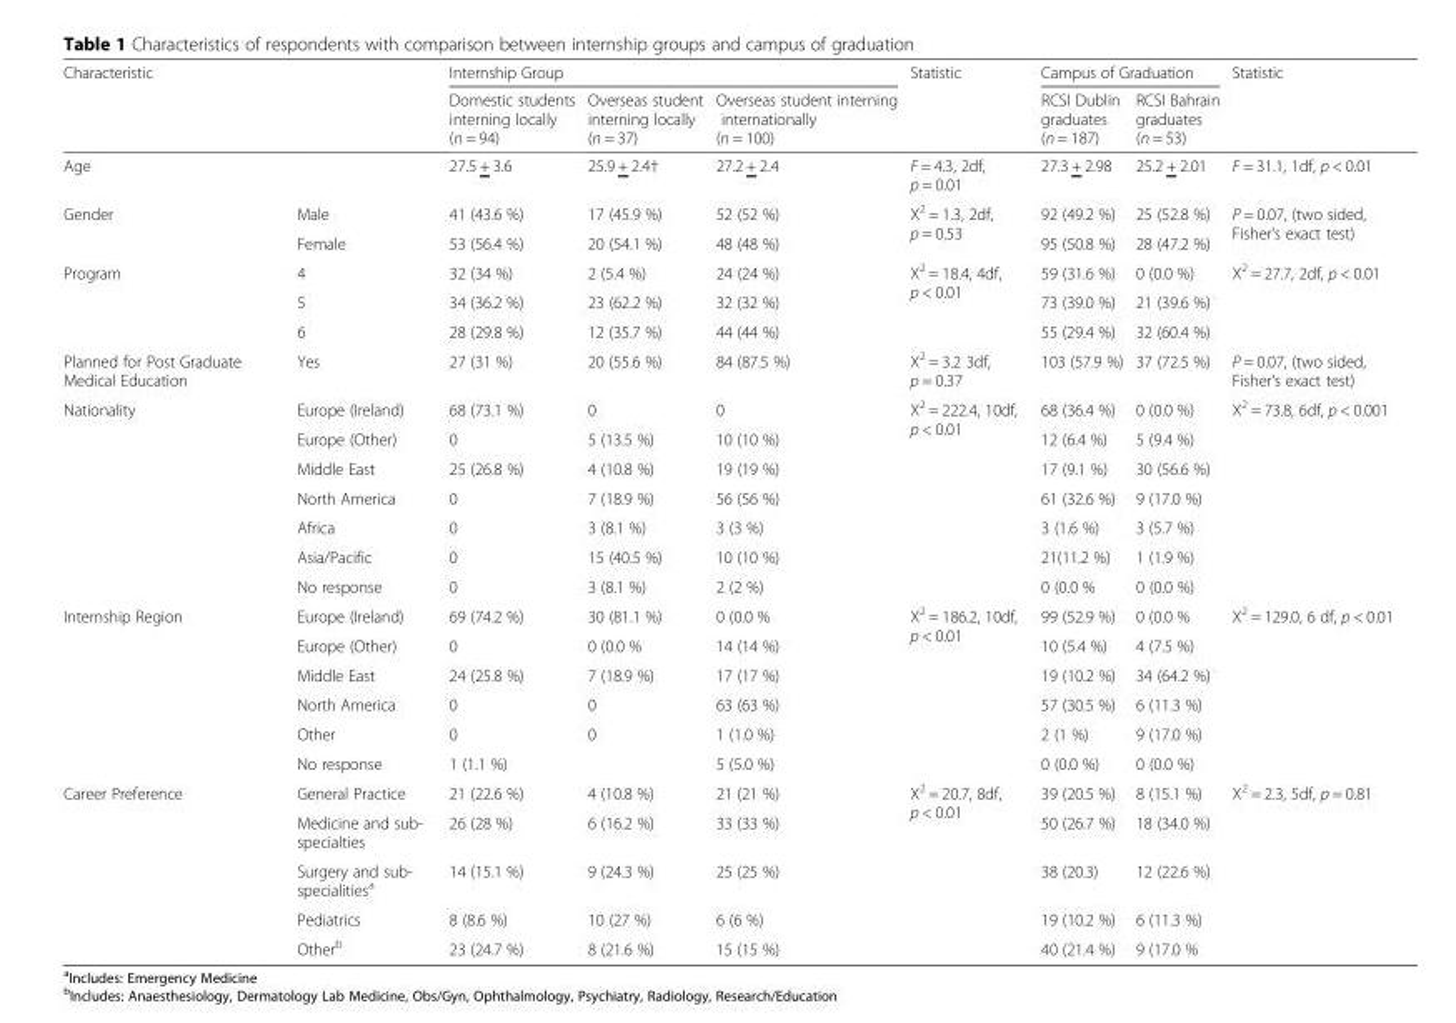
<table><thead><tr><td rowspan="2">Characteristic</td><td rowspan="2"></td><td colspan="3">Internship Group</td><td rowspan="2">Statistic</td><td colspan="2">Campus of Graduation</td><td rowspan="2">Statistic</td></tr><tr><td>Domestic students interning locally (n = 94)</td><td>Overseas student interning locally (n = 37)</td><td>Overseas student interning internationally (n = 100)</td><td>RCSI Dublin graduates (n = 187)</td><td>RCSI Bahrain graduates (n = 53)</td></tr></thead><tbody><tr><td>Age</td><td></td><td>27.5 + 3.6</td><td>25.9 + 2.4†</td><td>27.2 + 2.4</td><td>F = 4.3, 2df, p = 0.01</td><td>27.3 + 2.98</td><td>25.2 + 2.01</td><td>F = 31.1, 1df, p &lt; 0.01</td></tr><tr><td rowspan="2">Gender</td><td>Male</td><td>41 (43.6 %)</td><td>17 (45.9 %)</td><td>52 (52 %)</td><td rowspan="2">Χ<sup>2</sup> = 1.3, 2df, p = 0.53</td><td>92 (49.2 %)</td><td>25 (52.8 %)</td><td rowspan="2">P = 0.07, (two sided, Fisher’s exact test)</td></tr><tr><td>Female</td><td>53 (56.4 %)</td><td>20 (54.1 %)</td><td>48 (48 %)</td><td>95 (50.8 %)</td><td>28 (47.2 %)</td></tr><tr><td rowspan="3">Program</td><td>4</td><td>32 (34 %)</td><td>2 (5.4 %)</td><td>24 (24 %)</td><td rowspan="3">Χ<sup>2</sup> = 18.4, 4df, p &lt; 0.01</td><td>59 (31.6 %)</td><td>0 (0.0 %)</td><td rowspan="3">Χ<sup>2</sup> = 27.7, 2df, p &lt; 0.01</td></tr><tr><td>5</td><td>34 (36.2 %)</td><td>23 (62.2 %)</td><td>32 (32 %)</td><td>73 (39.0 %)</td><td>21 (39.6 %)</td></tr><tr><td>6</td><td>28 (29.8 %)</td><td>12 (35.7 %)</td><td>44 (44 %)</td><td>55 (29.4 %)</td><td>32 (60.4 %)</td></tr><tr><td>Planned for Post Graduate Medical Education</td><td>Yes</td><td>27 (31 %)</td><td>20 (55.6 %)</td><td>84 (87.5 %)</td><td>Χ<sup>2</sup> = 3.2 3df, p = 0.37</td><td>103 (57.9 %)</td><td>37 (72.5 %)</td><td>P = 0.07, (two sided, Fisher’s exact test)</td></tr><tr><td rowspan="7">Nationality</td><td>Europe (Ireland)</td><td>68 (73.1 %)</td><td>0</td><td>0</td><td rowspan="7">Χ<sup>2</sup> = 222.4, 10df, p &lt; 0.01</td><td>68 (36.4 %)</td><td>0 (0.0 %)</td><td>Χ<sup>2</sup> = 73.8, 6df, p &lt; 0.001</td></tr><tr><td>Europe (Other)</td><td>0</td><td>5 (13.5 %)</td><td>10 (10 %)</td><td>12 (6.4 %)</td><td>5 (9.4 %)</td><td></td></tr><tr><td>Middle East</td><td>25 (26.8 %)</td><td>4 (10.8 %)</td><td>19 (19 %)</td><td>17 (9.1 %)</td><td>30 (56.6 %)</td><td></td></tr><tr><td>North America</td><td>0</td><td>7 (18.9 %)</td><td>56 (56 %)</td><td>61 (32.6 %)</td><td>9 (17.0 %)</td><td></td></tr><tr><td>Africa</td><td>0</td><td>3 (8.1 %)</td><td>3 (3 %)</td><td>3 (1.6 %)</td><td>3 (5.7 %)</td><td></td></tr><tr><td>Asia/Pacific</td><td>0</td><td>15 (40.5 %)</td><td>10 (10 %)</td><td>21(11.2 %)</td><td>1 (1.9 %)</td><td></td></tr><tr><td>No response</td><td>0</td><td>3 (8.1 %)</td><td>2 (2 %)</td><td>0 (0.0 %</td><td>0 (0.0 %)</td><td></td></tr><tr><td rowspan="6">Internship Region</td><td>Europe (Ireland)</td><td>69 (74.2 %)</td><td>30 (81.1 %)</td><td>0 (0.0 %</td><td rowspan="6">Χ<sup>2</sup> = 186.2, 10df, p &lt; 0.01</td><td>99 (52.9 %)</td><td>0 (0.0 %</td><td rowspan="6">Χ<sup>2</sup> = 129.0, 6 df, p &lt; 0.01</td></tr><tr><td>Europe (Other)</td><td>0</td><td>0 (0.0 %</td><td>14 (14 %)</td><td>10 (5.4 %)</td><td>4 (7.5 %)</td></tr><tr><td>Middle East</td><td>24 (25.8 %)</td><td>7 (18.9 %)</td><td>17 (17 %)</td><td>19 (10.2 %)</td><td>34 (64.2 %)</td></tr><tr><td>North America</td><td>0</td><td>0</td><td>63 (63 %)</td><td>57 (30.5 %)</td><td>6 (11.3 %)</td></tr><tr><td>Other</td><td>0</td><td>0</td><td>1 (1.0 %)</td><td>2 (1 %)</td><td>9 (17.0 %)</td></tr><tr><td>No response</td><td>1 (1.1 %)</td><td></td><td>5 (5.0 %)</td><td>0 (0.0 %)</td><td>0 (0.0 %)</td></tr><tr><td rowspan="5">Career Preference</td><td>General Practice</td><td>21 (22.6 %)</td><td>4 (10.8 %)</td><td>21 (21 %)</td><td rowspan="5">Χ<sup>2</sup> = 20.7, 8df, p &lt; 0.01</td><td>39 (20.5 %)</td><td>8 (15.1 %)</td><td rowspan="5">Χ<sup>2</sup> = 2.3, 5df, p = 0.81</td></tr><tr><td>Medicine and sub- specialties</td><td>26 (28 %)</td><td>6 (16.2 %)</td><td>33 (33 %)</td><td>50 (26.7 %)</td><td>18 (34.0 %)</td></tr><tr><td>Surgery and sub- specialities<sup>a</sup></td><td>14 (15.1 %)</td><td>9 (24.3 %)</td><td>25 (25 %)</td><td>38 (20.3)</td><td>12 (22.6 %)</td></tr><tr><td>Pediatrics</td><td>8 (8.6 %)</td><td>10 (27 %)</td><td>6 (6 %)</td><td>19 (10.2 %)</td><td>6 (11.3 %)</td></tr><tr><td>Other<sup>b</sup></td><td>23 (24.7 %)</td><td>8 (21.6 %)</td><td>15 (15 %)</td><td>40 (21.4 %)</td><td>9 (17.0 %</td></tr></tbody></table>